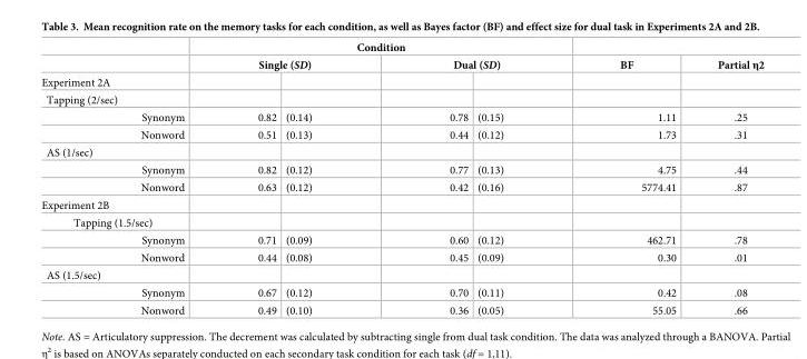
<table><thead><tr><td rowspan="3">Experiment 2A</td><td colspan="4">Condition</td><td rowspan="3">BF</td><td rowspan="3">Partial η2</td></tr><tr><td colspan="2">Single (SD)</td><td colspan="2">Dual (SD)</td></tr><tr><td></td><td></td><td></td><td></td></tr></thead><tbody><tr><td colspan="7">Tapping (2/sec)</td></tr><tr><td>Synonym</td><td>0.82</td><td>(0.14)</td><td>0.78</td><td>(0.15)</td><td>1.11</td><td>.25</td></tr><tr><td>Nonword</td><td>0.51</td><td>(0.13)</td><td>0.44</td><td>(0.12)</td><td>1.73</td><td>.31</td></tr><tr><td colspan="7">AS (1/sec)</td></tr><tr><td>Synonym</td><td>0.82</td><td>(0.12)</td><td>0.77</td><td>(0.13)</td><td>4.75</td><td>.44</td></tr><tr><td>Nonword</td><td>0.63</td><td>(0.12)</td><td>0.42</td><td>(0.16)</td><td>5774.41</td><td>.87</td></tr><tr><td colspan="7">Experiment 2B</td></tr><tr><td colspan="7">Tapping (1.5/sec)</td></tr><tr><td>Synonym</td><td>0.71</td><td>(0.09)</td><td>0.60</td><td>(0.12)</td><td>462.71</td><td>.78</td></tr><tr><td>Nonword</td><td>0.44</td><td>(0.08)</td><td>0.45</td><td>(0.09)</td><td>0.30</td><td>.01</td></tr><tr><td colspan="7">AS (1.5/sec)</td></tr><tr><td>Synonym</td><td>0.67</td><td>(0.12)</td><td>0.70</td><td>(0.11)</td><td>0.42</td><td>.08</td></tr><tr><td>Nonword</td><td>0.49</td><td>(0.10)</td><td>0.36</td><td>(0.05)</td><td>55.05</td><td>.66</td></tr></tbody></table>